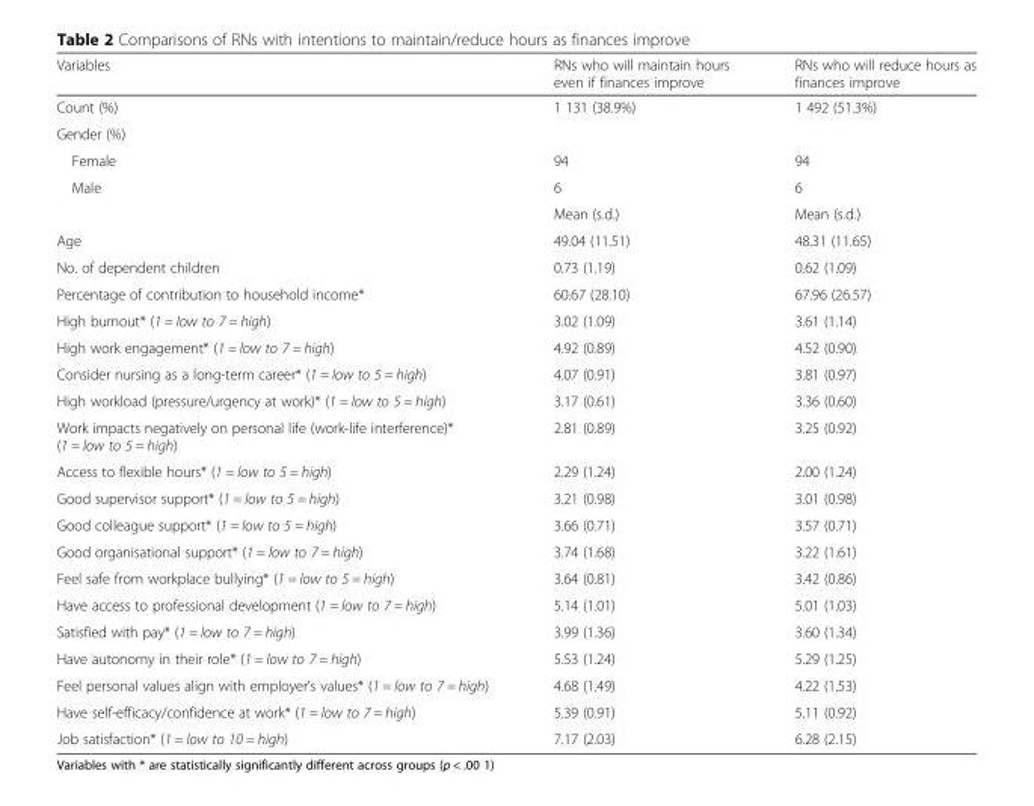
<table><thead><tr><td>Variables</td><td>RNs who will maintain hours even if finances improve</td><td>RNs who will reduce hours as finances improve</td></tr></thead><tbody><tr><td>Count (%)</td><td>1 131 (38.9%)</td><td>1 492 (51.3%)</td></tr><tr><td colspan="3">Gender (%)</td></tr><tr><td>Female</td><td>94</td><td>94</td></tr><tr><td rowspan="2">Male</td><td>6</td><td>6</td></tr><tr><td>Mean (s.d.)</td><td>Mean (s.d.)</td></tr><tr><td>Age</td><td>49.04 (11.51)</td><td>48.31 (11.65)</td></tr><tr><td>No. of dependent children</td><td>0.73 (1.19)</td><td>0.62 (1.09)</td></tr><tr><td>Percentage of contribution to household income*</td><td>60.67 (28.10)</td><td>67.96 (26.57)</td></tr><tr><td>High burnout* (1 = low to 7 = high)</td><td>3.02 (1.09)</td><td>3.61 (1.14)</td></tr><tr><td>High work engagement* (1 = low to 7 = high)</td><td>4.92 (0.89)</td><td>4.52 (0.90)</td></tr><tr><td>Consider nursing as a long-term career* (1 = low to 5 = high)</td><td>4.07 (0.91)</td><td>3.81 (0.97)</td></tr><tr><td>High workload (pressure/urgency at work)* (1 = low to 5 = high)</td><td>3.17 (0.61)</td><td>3.36 (0.60)</td></tr><tr><td>Work impacts negatively on personal life (work-life interference)* (1 = low to 5 = high)</td><td>2.81 (0.89)</td><td>3.25 (0.92)</td></tr><tr><td>Access to flexible hours* (1 = low to 5 = high)</td><td>2.29 (1.24)</td><td>2.00 (1.24)</td></tr><tr><td>Good supervisor support* (1 = low to 5 = high)</td><td>3.21 (0.98)</td><td>3.01 (0.98)</td></tr><tr><td>Good colleague support* (1 = low to 5 = high)</td><td>3.66 (0.71)</td><td>3.57 (0.71)</td></tr><tr><td>Good organisational support* (1 = low to 7 = high)</td><td>3.74 (1.68)</td><td>3.22 (1.61)</td></tr><tr><td>Feel safe from workplace bullying* (1 = low to 5 = high)</td><td>3.64 (0.81)</td><td>3.42 (0.86)</td></tr><tr><td>Have access to professional development (1 = low to 7 = high)</td><td>5.14 (1.01)</td><td>5.01 (1.03)</td></tr><tr><td>Satisfied with pay* (1 = low to 7 = high)</td><td>3.99 (1.36)</td><td>3.60 (1.34)</td></tr><tr><td>Have autonomy in their role* (1 = low to 7 = high)</td><td>5.53 (1.24)</td><td>5.29 (1.25)</td></tr><tr><td>Feel personal values align with employer’s values* (1 = low to 7 = high)</td><td>4.68 (1.49)</td><td>4.22 (1.53)</td></tr><tr><td>Have self-efficacy/confidence at work* (1 = low to 7 = high)</td><td>5.39 (0.91)</td><td>5.11 (0.92)</td></tr><tr><td>Job satisfaction* (1 = low to 10 = high)</td><td>7.17 (2.03)</td><td>6.28 (2.15)</td></tr></tbody></table>